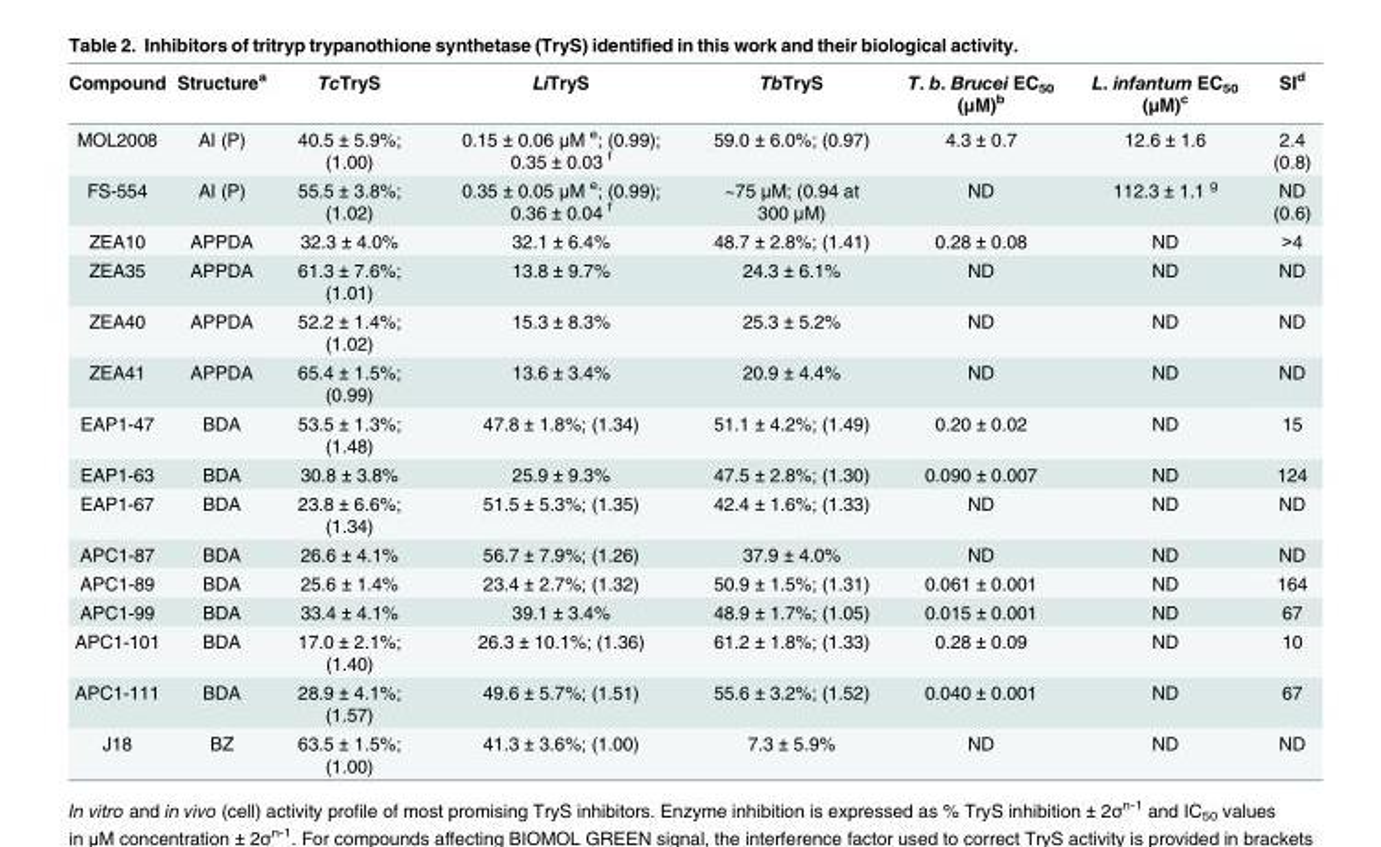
<table><thead><tr><td>Compound</td><td>Structure<sup>a</sup></td><td>TcTryS</td><td>LiTryS</td><td>TbTryS</td><td>T. b. Brucei EC<sub>50</sub> (μM)<sup>b</sup></td><td>L. infantum EC<sub>50</sub> (μM)<sup>c</sup></td><td>SI<sup>d</sup></td></tr></thead><tbody><tr><td>MOL2008</td><td>AI (P)</td><td>40.5 ± 5.9%; (1.00)</td><td>0.15 ± 0.06 μM <sup>e</sup>; (0.99); 0.35 ± 0.03 <sup>f</sup></td><td>59.0 ± 6.0%; (0.97)</td><td>4.3 ± 0.7</td><td>12.6 ± 1.6</td><td>2.4 (0.8)</td></tr><tr><td>FS-554</td><td>AI (P)</td><td>55.5 ± 3.8%; (1.02)</td><td>0.35 ± 0.05 μM <sup>e</sup>; (0.99); 0.36 ± 0.04 <sup>f</sup></td><td>~75 μM; (0.94 at 300 μM)</td><td>ND</td><td>112.3 ± 1.1 <sup>g</sup></td><td>ND (0.6)</td></tr><tr><td>ZEA10</td><td>APPDA</td><td>32.3 ± 4.0%</td><td>32.1 ± 6.4%</td><td>48.7 ± 2.8%; (1.41)</td><td>0.28 ± 0.08</td><td>ND</td><td>&gt;4</td></tr><tr><td>ZEA35</td><td>APPDA</td><td>61.3 ± 7.6%; (1.01)</td><td>13.8 ± 9.7%</td><td>24.3 ± 6.1%</td><td>ND</td><td>ND</td><td>ND</td></tr><tr><td>ZEA40</td><td>APPDA</td><td>52.2 ± 1.4%; (1.02)</td><td>15.3 ± 8.3%</td><td>25.3 ± 5.2%</td><td>ND</td><td>ND</td><td>ND</td></tr><tr><td>ZEA41</td><td>APPDA</td><td>65.4 ± 1.5%; (0.99)</td><td>13.6 ± 3.4%</td><td>20.9 ± 4.4%</td><td>ND</td><td>ND</td><td>ND</td></tr><tr><td>EAP1-47</td><td>BDA</td><td>53.5 ± 1.3%; (1.48)</td><td>47.8 ± 1.8%; (1.34)</td><td>51.1 ± 4.2%; (1.49)</td><td>0.20 ± 0.02</td><td>ND</td><td>15</td></tr><tr><td>EAP1-63</td><td>BDA</td><td>30.8 ± 3.8%</td><td>25.9 ± 9.3%</td><td>47.5 ± 2.8%; (1.30)</td><td>0.090 ± 0.007</td><td>ND</td><td>124</td></tr><tr><td>EAP1-67</td><td>BDA</td><td>23.8 ± 6.6%; (1.34)</td><td>51.5 ± 5.3%; (1.35)</td><td>42.4 ± 1.6%; (1.33)</td><td>ND</td><td>ND</td><td>ND</td></tr><tr><td>APC1-87</td><td>BDA</td><td>26.6 ± 4.1%</td><td>56.7 ± 7.9%; (1.26)</td><td>37.9 ± 4.0%</td><td>ND</td><td>ND</td><td>ND</td></tr><tr><td>APC1-89</td><td>BDA</td><td>25.6 ± 1.4%</td><td>23.4 ± 2.7%; (1.32)</td><td>50.9 ± 1.5%; (1.31)</td><td>0.061 ± 0.001</td><td>ND</td><td>164</td></tr><tr><td>APC1-99</td><td>BDA</td><td>33.4 ± 4.1%</td><td>39.1 ± 3.4%</td><td>48.9 ± 1.7%; (1.05)</td><td>0.015 ± 0.001</td><td>ND</td><td>67</td></tr><tr><td>APC1-101</td><td>BDA</td><td>17.0 ± 2.1%; (1.40)</td><td>26.3 ± 10.1%; (1.36)</td><td>61.2 ± 1.8%; (1.33)</td><td>0.28 ± 0.09</td><td>ND</td><td>10</td></tr><tr><td>APC1-111</td><td>BDA</td><td>28.9 ± 4.1%; (1.57)</td><td>49.6 ± 5.7%; (1.51)</td><td>55.6 ± 3.2%; (1.52)</td><td>0.040 ± 0.001</td><td>ND</td><td>67</td></tr><tr><td>J18</td><td>BZ</td><td>63.5 ± 1.5%; (1.00)</td><td>41.3 ± 3.6%; (1.00)</td><td>7.3 ± 5.9%</td><td>ND</td><td>ND</td><td>ND</td></tr></tbody></table>